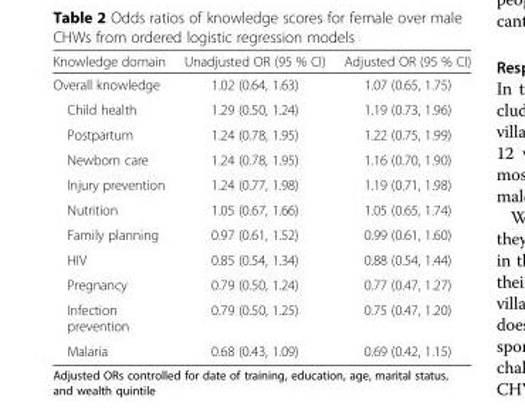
<table><thead><tr><td>Knowledge domain</td><td>Unadjusted OR (95 % CI)</td><td>Adjusted OR (95 % CI)</td></tr></thead><tbody><tr><td>Overall knowledge</td><td>1.02 (0.64, 1.63)</td><td>1.07 (0.65, 1.75)</td></tr><tr><td>Child health</td><td>1.29 (0.50, 1.24)</td><td>1.19 (0.73, 1.96)</td></tr><tr><td>Postpartum</td><td>1.24 (0.78, 1.95)</td><td>1.22 (0.75, 1.99)</td></tr><tr><td>Newborn care</td><td>1.24 (0.78, 1.95)</td><td>1.16 (0.70, 1.90)</td></tr><tr><td>Injury prevention</td><td>1.24 (0.77, 1.98)</td><td>1.19 (0.71, 1.98)</td></tr><tr><td>Nutrition</td><td>1.05 (0.67, 1.66)</td><td>1.05 (0.65, 1.74)</td></tr><tr><td>Family planning</td><td>0.97 (0.61, 1.52)</td><td>0.99 (0.61, 1.60)</td></tr><tr><td>HIV</td><td>0.85 (0.54, 1.34)</td><td>0.88 (0.54, 1.44)</td></tr><tr><td>Pregnancy</td><td>0.79 (0.50, 1.24)</td><td>0.77 (0.47, 1.27)</td></tr><tr><td>Infection prevention</td><td>0.79 (0.50, 1.25)</td><td>0.75 (0.47, 1.20)</td></tr><tr><td>Malaria</td><td>0.68 (0.43, 1.09)</td><td>0.69 (0.42, 1.15)</td></tr></tbody></table>